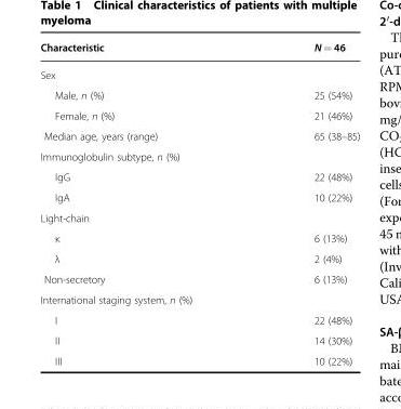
<table><thead><tr><td>Characteristic</td><td>N = 46</td></tr></thead><tbody><tr><td colspan="2">Sex</td></tr><tr><td>Male, n (%)</td><td>25 (54%)</td></tr><tr><td>Female, n (%)</td><td>21 (46%)</td></tr><tr><td>Median age, years (range)</td><td>65 (38–85)</td></tr><tr><td colspan="2">Immunoglobulin subtype, n (%)</td></tr><tr><td>IgG</td><td>22 (48%)</td></tr><tr><td>IgA</td><td>10 (22%)</td></tr><tr><td colspan="2">Light-chain</td></tr><tr><td>κ</td><td>6 (13%)</td></tr><tr><td>λ</td><td>2 (4%)</td></tr><tr><td>Non-secretory</td><td>6 (13%)</td></tr><tr><td colspan="2">International staging system, n (%)</td></tr><tr><td>I</td><td>22 (48%)</td></tr><tr><td>II</td><td>14 (30%)</td></tr><tr><td>III</td><td>10 (22%)</td></tr></tbody></table>